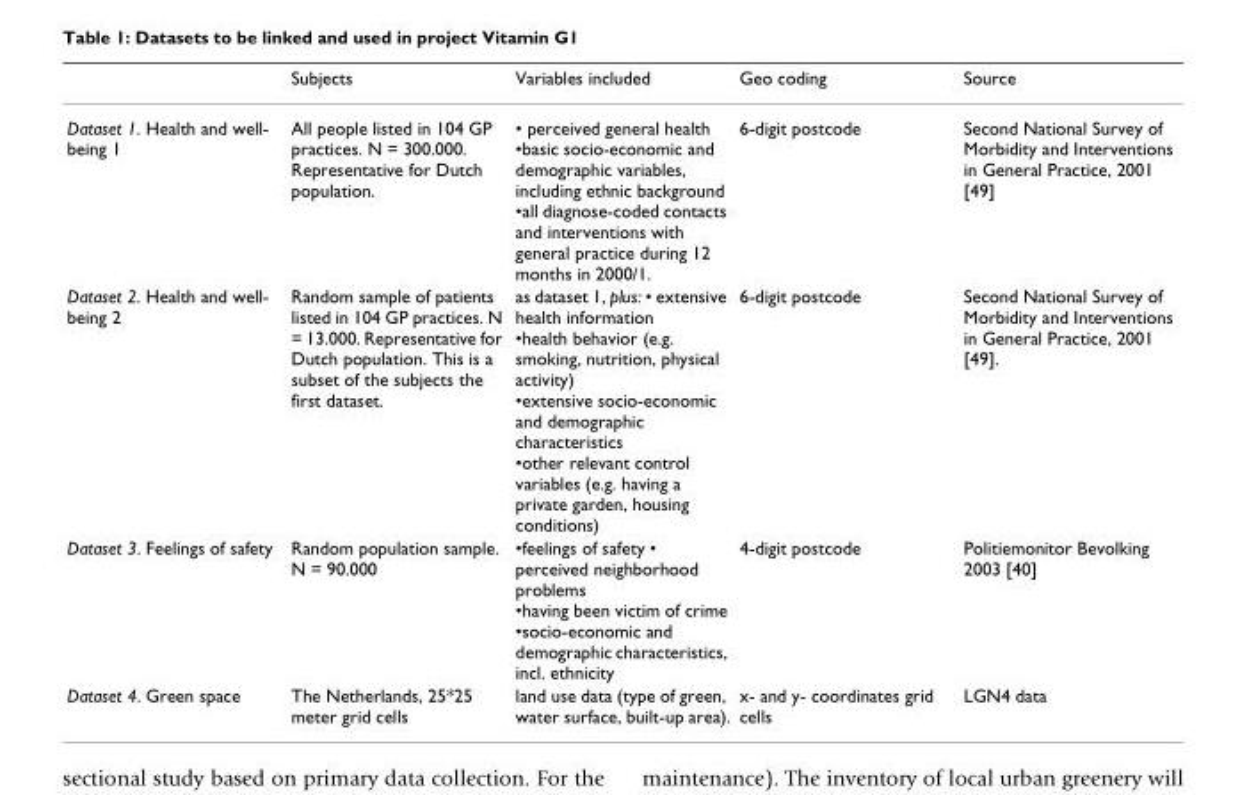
<table><thead><tr><td></td><td>Subjects</td><td>Variables included</td><td>Geo coding</td><td>Source</td></tr></thead><tbody><tr><td>Dataset 1. Health and well- being 1</td><td>All people listed in 104 GP practices. N = 300.000. Representative for Dutch population.</td><td>• perceived general health •basic socio-economic and demographic variables, including ethnic background •all diagnose-coded contacts and interventions with general practice during 12 months in 2000/1.</td><td>6-digit postcode</td><td>Second National Survey of Morbidity and Interventions in General Practice, 2001 [49]</td></tr><tr><td>Dataset 2. Health and well- being 2</td><td>Random sample of patients listed in 104 GP practices. N = 13.000. Representative for Dutch population. This is a subset of the subjects the first dataset.</td><td>as dataset 1, plus: • extensive health information •health behavior (e.g. smoking, nutrition, physical activity) •extensive socio-economic and demographic characteristics •other relevant control variables (e.g. having a private garden, housing conditions)</td><td>6-digit postcode</td><td>Second National Survey of Morbidity and Interventions in General Practice, 2001 [49].</td></tr><tr><td>Dataset 3. Feelings of safety</td><td>Random population sample. N = 90.000</td><td>•feelings of safety • perceived neighborhood problems •having been victim of crime •socio-economic and demographic characteristics, incl. ethnicity</td><td>4-digit postcode</td><td>Politiemonitor Bevolking 2003 [40]</td></tr><tr><td>Dataset 4. Green space</td><td>The Netherlands, 25*25 meter grid cells</td><td>land use data (type of green, water surface, built-up area).</td><td>x- and y- coordinates grid cells</td><td>LGN4 data</td></tr></tbody></table>